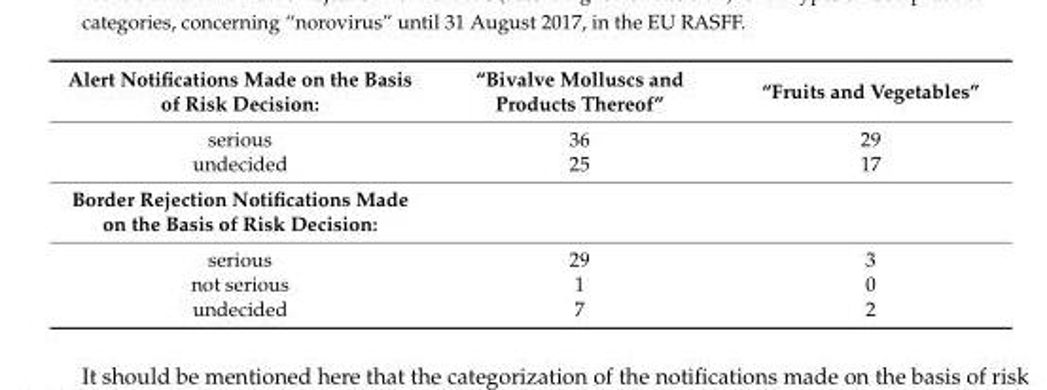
<table><tbody><tr><td>Alert Notifications Made on the Basis of Risk Decision:</td><td>“Bivalve Molluscs and Products Thereof”</td><td>“Fruits and Vegetables”</td></tr><tr><td>serious</td><td>36</td><td>29</td></tr><tr><td>undecided</td><td>25</td><td>17</td></tr><tr><td colspan="3">Border Rejection Notifications Made on the Basis of Risk Decision:</td></tr><tr><td>serious</td><td>29</td><td>3</td></tr><tr><td>not serious</td><td>1</td><td>0</td></tr><tr><td>undecided</td><td>7</td><td>2</td></tr></tbody></table>